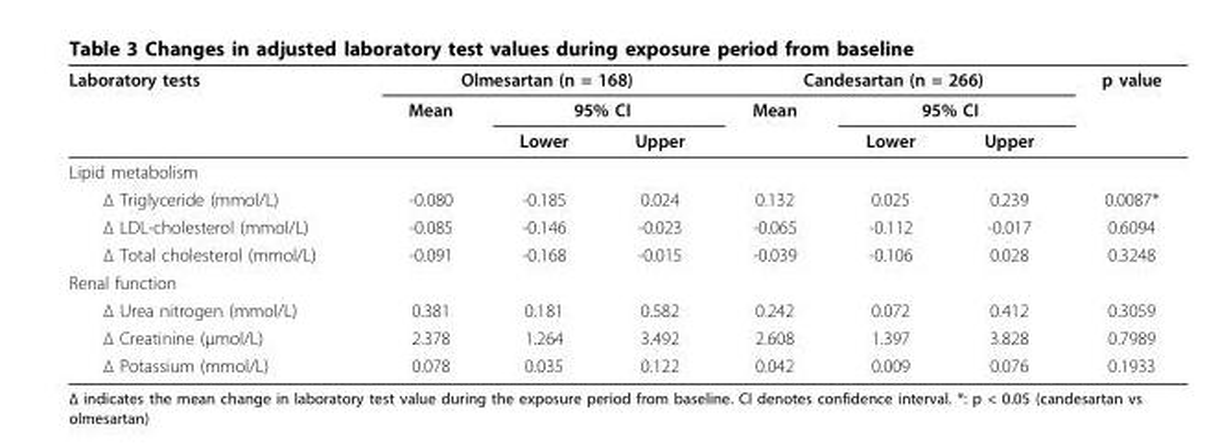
<table><thead><tr><td rowspan="3">Laboratory tests</td><td colspan="3">Olmesartan (n = 168)</td><td colspan="3">Candesartan (n = 266)</td><td rowspan="3">p value</td></tr><tr><td rowspan="2">Mean</td><td colspan="2">95% CI</td><td rowspan="2">Mean</td><td colspan="2">95% CI</td></tr><tr><td>Lower</td><td>Upper</td><td>Lower</td><td>Upper</td></tr></thead><tbody><tr><td colspan="8">Lipid metabolism</td></tr><tr><td>Δ Triglyceride (mmol/L)</td><td>-0.080</td><td>-0.185</td><td>0.024</td><td>0.132</td><td>0.025</td><td>0.239</td><td>0.0087*</td></tr><tr><td>Δ LDL-cholesterol (mmol/L)</td><td>-0.085</td><td>-0.146</td><td>-0.023</td><td>-0.065</td><td>-0.112</td><td>-0.017</td><td>0.6094</td></tr><tr><td>Δ Total cholesterol (mmol/L)</td><td>-0.091</td><td>-0.168</td><td>-0.015</td><td>-0.039</td><td>-0.106</td><td>0.028</td><td>0.3248</td></tr><tr><td colspan="8">Renal function</td></tr><tr><td>Δ Urea nitrogen (mmol/L)</td><td>0.381</td><td>0.181</td><td>0.582</td><td>0.242</td><td>0.072</td><td>0.412</td><td>0.3059</td></tr><tr><td>Δ Creatinine (μmol/L)</td><td>2.378</td><td>1.264</td><td>3.492</td><td>2.608</td><td>1.397</td><td>3.828</td><td>0.7989</td></tr><tr><td>Δ Potassium (mmol/L)</td><td>0.078</td><td>0.035</td><td>0.122</td><td>0.042</td><td>0.009</td><td>0.076</td><td>0.1933</td></tr></tbody></table>